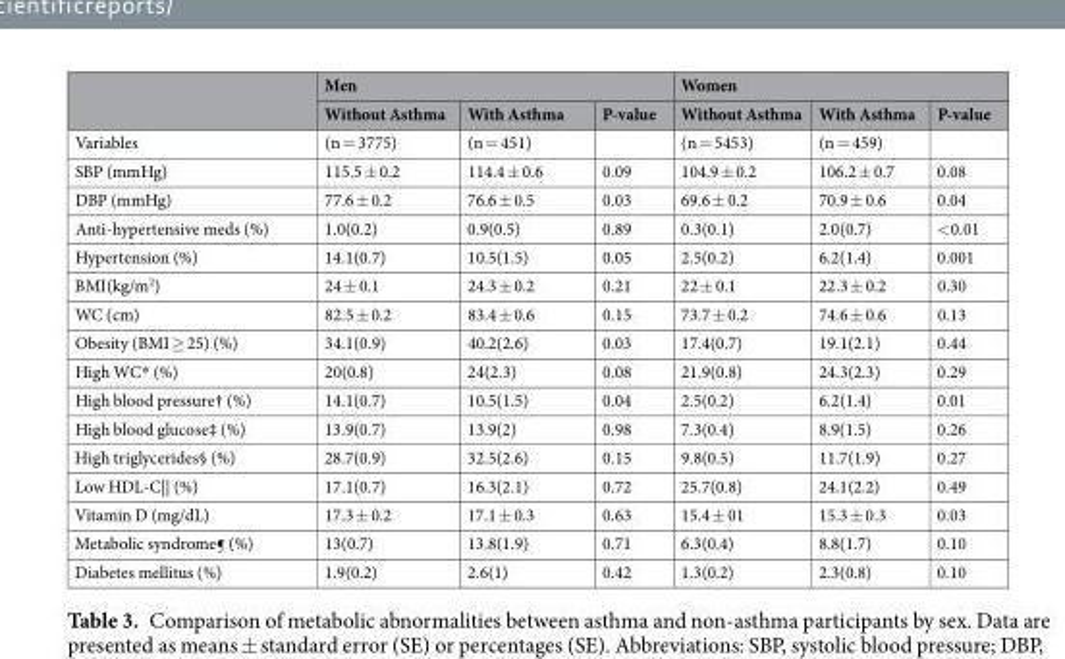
<table><thead><tr><td rowspan="2"></td><td colspan="3">Men</td><td colspan="3">Women</td></tr><tr><td>Without Asthma</td><td>With Asthma</td><td>P-value</td><td>Without Asthma</td><td>With Asthma</td><td>P-value</td></tr></thead><tbody><tr><td>Variables</td><td>(n = 3775)</td><td>(n = 451)</td><td></td><td>(n = 5453)</td><td>(n = 459)</td><td></td></tr><tr><td>SBP (mmHg)</td><td>115.5 ± 0.2</td><td>114.4 ± 0.6</td><td>0.09</td><td>104.9 ± 0.2</td><td>106.2 ± 0.7</td><td>0.08</td></tr><tr><td>DBP (mmHg)</td><td>77.6 ± 0.2</td><td>76.6 ± 0.5</td><td>0.03</td><td>69.6 ± 0.2</td><td>70.9 ± 0.6</td><td>0.04</td></tr><tr><td>Anti-hypertensive meds (%)</td><td>1.0(0.2)</td><td>0.9(0.5)</td><td>0.89</td><td>0.3(0.1)</td><td>2.0(0.7)</td><td>&lt;0.01</td></tr><tr><td>Hypertension (%)</td><td>14.1(0.7)</td><td>10.5(1.5)</td><td>0.05</td><td>2.5(0.2)</td><td>6.2(1.4)</td><td>0.001</td></tr><tr><td>BMI(kg/m<sup>2</sup>)</td><td>24 ± 0.1</td><td>24.3 ± 0.2</td><td>0.21</td><td>22 ± 0.1</td><td>22.3 ± 0.2</td><td>0.30</td></tr><tr><td>WC (cm)</td><td>82.5 ± 0.2</td><td>83.4 ± 0.6</td><td>0.15</td><td>73.7 ± 0.2</td><td>74.6 ± 0.6</td><td>0.13</td></tr><tr><td>Obesity (BMI ≥ 25) (%)</td><td>34.1(0.9)</td><td>40.2(2.6)</td><td>0.03</td><td>17.4(0.7)</td><td>19.1(2.1)</td><td>0.44</td></tr><tr><td>High WC* (%)</td><td>20(0.8)</td><td>24(2.3)</td><td>0.08</td><td>21.9(0.8)</td><td>24.3(2.3)</td><td>0.29</td></tr><tr><td>High blood pressure† (%)</td><td>14.1(0.7)</td><td>10.5(1.5)</td><td>0.04</td><td>2.5(0.2)</td><td>6.2(1.4)</td><td>0.01</td></tr><tr><td>High blood glucose‡ (%)</td><td>13.9(0.7)</td><td>13.9(2)</td><td>0.98</td><td>7.3(0.4)</td><td>8.9(1.5)</td><td>0.26</td></tr><tr><td>High triglycerides§ (%)</td><td>28.7(0.9)</td><td>32.5(2.6)</td><td>0.15</td><td>9.8(0.5)</td><td>11.7(1.9)</td><td>0.27</td></tr><tr><td>Low HDL-C|| (%)</td><td>17.1(0.7)</td><td>16.3(2.1)</td><td>0.72</td><td>25.7(0.8)</td><td>24.1(2.2)</td><td>0.49</td></tr><tr><td>Vitamin D (mg/dL)</td><td>17.3 ± 0.2</td><td>17.1 ± 0.3</td><td>0.63</td><td>15.4 ± 01</td><td>15.3 ± 0.3</td><td>0.03</td></tr><tr><td>Metabolic syndrome¶ (%)</td><td>13(0.7)</td><td>13.8(1.9)</td><td>0.71</td><td>6.3(0.4)</td><td>8.8(1.7)</td><td>0.10</td></tr><tr><td>Diabetes mellitus (%)</td><td>1.9(0.2)</td><td>2.6(1)</td><td>0.42</td><td>1.3(0.2)</td><td>2.3(0.8)</td><td>0.10</td></tr></tbody></table>